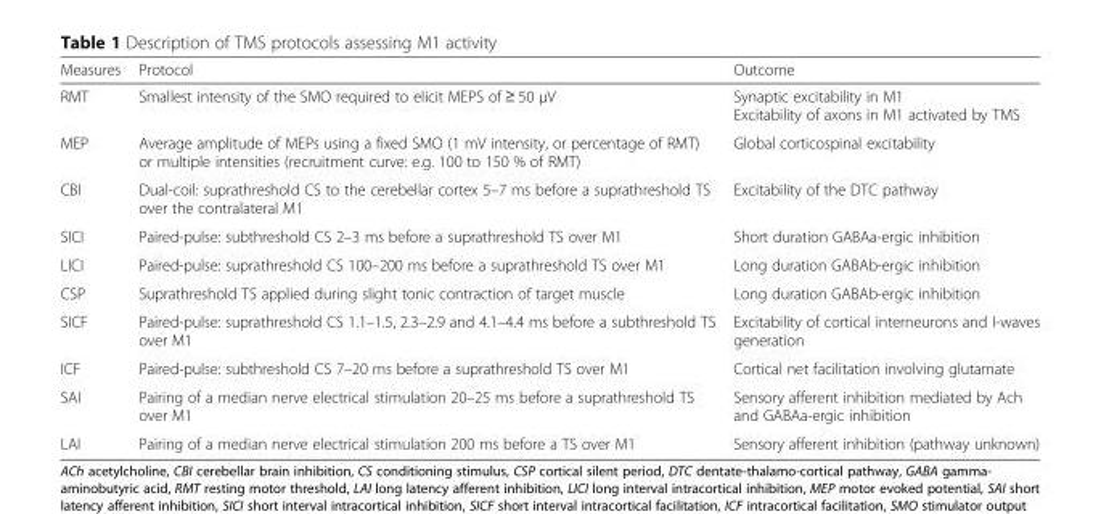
<table><thead><tr><td>Measures</td><td>Protocol</td><td>Outcome</td></tr></thead><tbody><tr><td>RMT</td><td>Smallest intensity of the SMO required to elicit MEPS of ≥ 50 μV</td><td>Synaptic excitability in M1 Excitability of axons in M1 activated by TMS</td></tr><tr><td>MEP</td><td>Average amplitude of MEPs using a fixed SMO (1 mV intensity, or percentage of RMT) or multiple intensities (recruitment curve: e.g. 100 to 150 % of RMT)</td><td>Global corticospinal excitability</td></tr><tr><td>CBI</td><td>Dual-coil: suprathreshold CS to the cerebellar cortex 5–7 ms before a suprathreshold TS over the contralateral M1</td><td>Excitability of the DTC pathway</td></tr><tr><td>SICI</td><td>Paired-pulse: subthreshold CS 2–3 ms before a suprathreshold TS over M1</td><td>Short duration GABAa-ergic inhibition</td></tr><tr><td>LICI</td><td>Paired-pulse: suprathreshold CS 100–200 ms before a suprathreshold TS over M1</td><td>Long duration GABAb-ergic inhibition</td></tr><tr><td>CSP</td><td>Suprathreshold TS applied during slight tonic contraction of target muscle</td><td>Long duration GABAb-ergic inhibition</td></tr><tr><td>SICF</td><td>Paired-pulse: suprathreshold CS 1.1–1.5, 2.3–2.9 and 4.1–4.4 ms before a subthreshold TS over M1</td><td>Excitability of cortical interneurons and I-waves generation</td></tr><tr><td>ICF</td><td>Paired-pulse: subthreshold CS 7–20 ms before a suprathreshold TS over M1</td><td>Cortical net facilitation involving glutamate</td></tr><tr><td>SAI</td><td>Pairing of a median nerve electrical stimulation 20–25 ms before a suprathreshold TS over M1</td><td>Sensory afferent inhibition mediated by Ach and GABAa-ergic inhibition</td></tr><tr><td>LAI</td><td>Pairing of a median nerve electrical stimulation 200 ms before a TS over M1</td><td>Sensory afferent inhibition (pathway unknown)</td></tr></tbody></table>